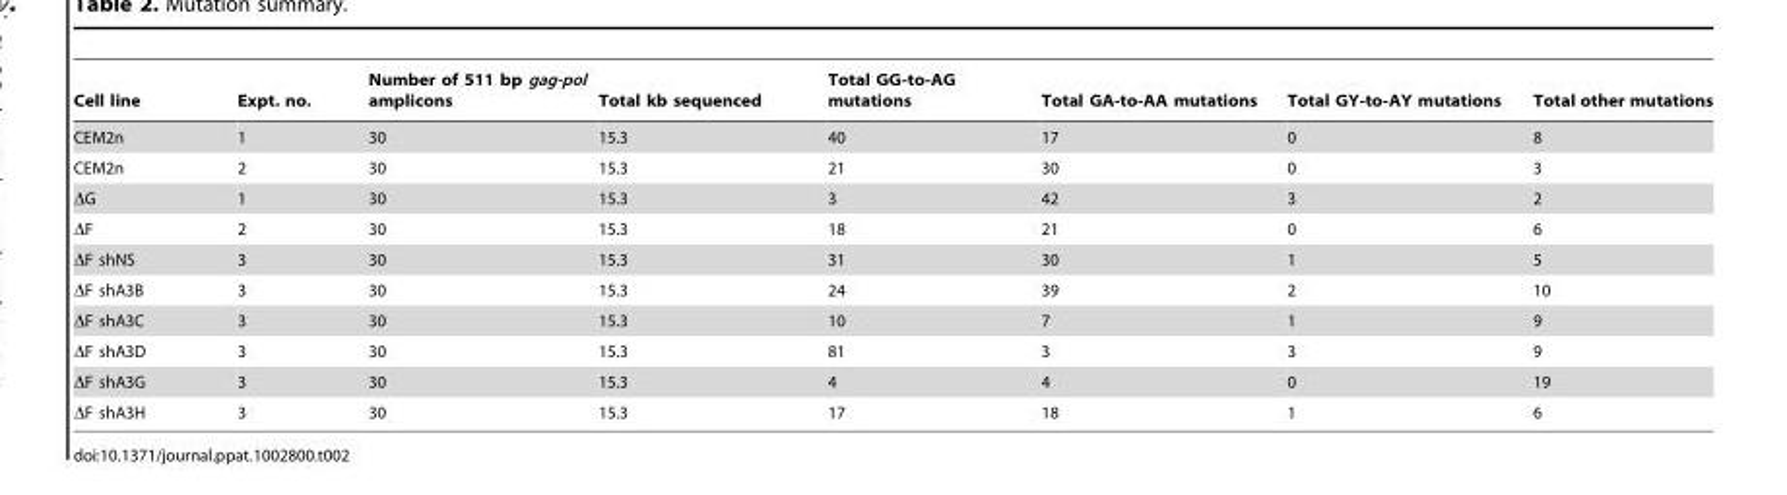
<table><thead><tr><td>Cell line</td><td>Expt. no.</td><td>Number of 511 bp gag-pol amplicons</td><td>Total kb sequenced</td><td>Total GG-to-AG mutations</td><td>Total GA-to-AA mutations</td><td>Total GY-to-AY mutations</td><td>Total other mutations</td></tr></thead><tbody><tr><td>CEM2n</td><td>1</td><td>30</td><td>15.3</td><td>40</td><td>17</td><td>0</td><td>8</td></tr><tr><td>CEM2n</td><td>2</td><td>30</td><td>15.3</td><td>21</td><td>30</td><td>0</td><td>3</td></tr><tr><td>ΔG</td><td>1</td><td>30</td><td>15.3</td><td>3</td><td>42</td><td>3</td><td>2</td></tr><tr><td>ΔF</td><td>2</td><td>30</td><td>15.3</td><td>18</td><td>21</td><td>0</td><td>6</td></tr><tr><td>ΔF shNS</td><td>3</td><td>30</td><td>15.3</td><td>31</td><td>30</td><td>1</td><td>5</td></tr><tr><td>ΔF shA3B</td><td>3</td><td>30</td><td>15.3</td><td>24</td><td>39</td><td>2</td><td>10</td></tr><tr><td>ΔF shA3C</td><td>3</td><td>30</td><td>15.3</td><td>10</td><td>7</td><td>1</td><td>9</td></tr><tr><td>ΔF shA3D</td><td>3</td><td>30</td><td>15.3</td><td>81</td><td>3</td><td>3</td><td>9</td></tr><tr><td>ΔF shA3G</td><td>3</td><td>30</td><td>15.3</td><td>4</td><td>4</td><td>0</td><td>19</td></tr><tr><td>ΔF shA3H</td><td>3</td><td>30</td><td>15.3</td><td>17</td><td>18</td><td>1</td><td>6</td></tr></tbody></table>